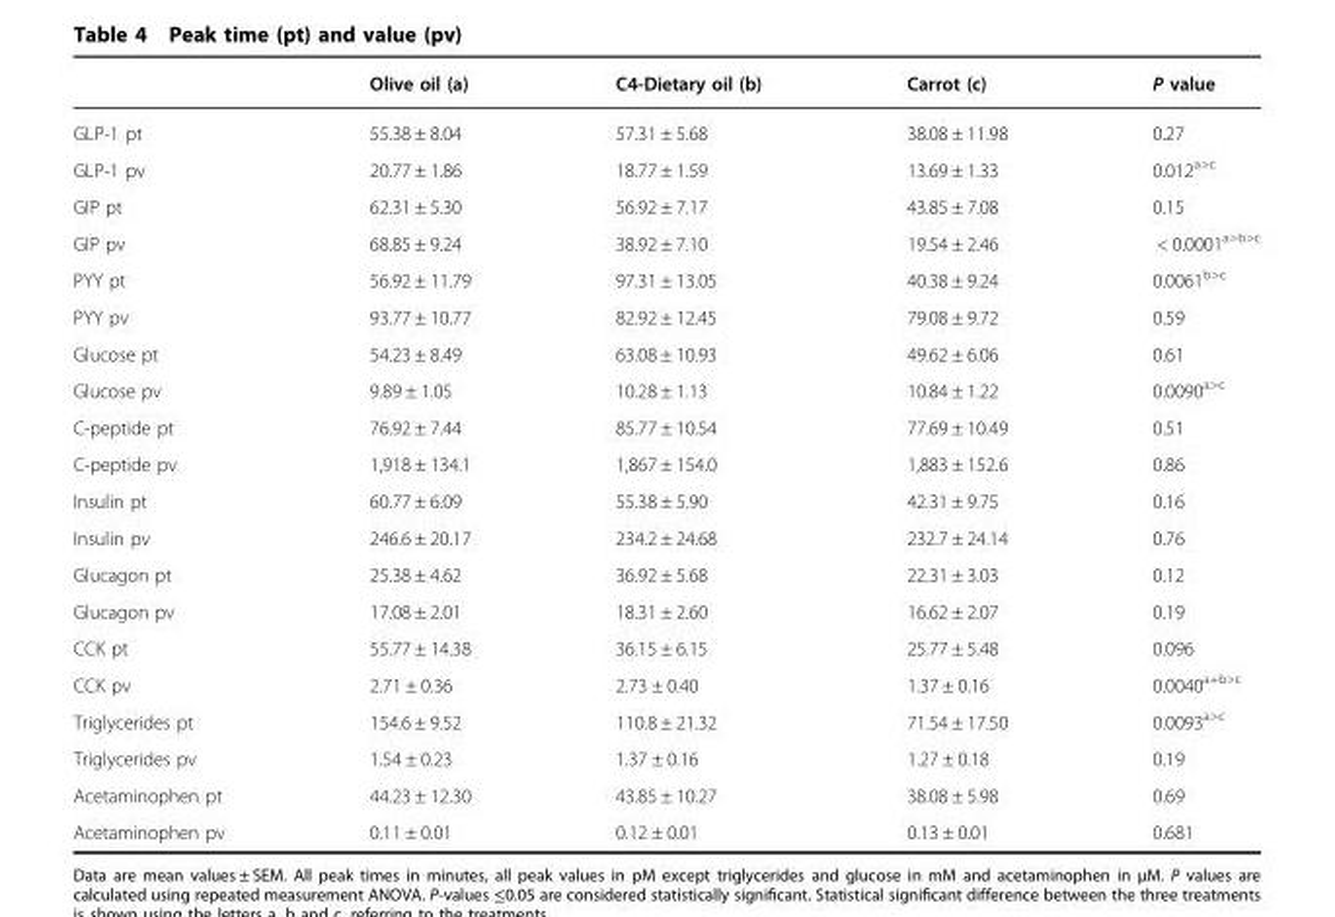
<table><thead><tr><td></td><td>Olive oil (a)</td><td>C4-Dietary oil (b)</td><td>Carrot (c)</td><td>P value</td></tr></thead><tbody><tr><td>GLP-1 pt</td><td>55.38 ± 8.04</td><td>57.31 ± 5.68</td><td>38.08 ± 11.98</td><td>0.27</td></tr><tr><td>GLP-1 pv</td><td>20.77 ± 1.86</td><td>18.77 ± 1.59</td><td>13.69 ± 1.33</td><td>0.012<sup>a&gt;c</sup></td></tr><tr><td>GIP pt</td><td>62.31 ± 5.30</td><td>56.92 ± 7.17</td><td>43.85 ± 7.08</td><td>0.15</td></tr><tr><td>GIP pv</td><td>68.85 ± 9.24</td><td>38.92 ± 7.10</td><td>19.54 ± 2.46</td><td>&lt; 0.0001<sup>a&gt;b&gt;c</sup></td></tr><tr><td>PYY pt</td><td>56.92 ± 11.79</td><td>97.31 ± 13.05</td><td>40.38 ± 9.24</td><td>0.0061<sup>b&gt;c</sup></td></tr><tr><td>PYY pv</td><td>93.77 ± 10.77</td><td>82.92 ± 12.45</td><td>79.08 ± 9.72</td><td>0.59</td></tr><tr><td>Glucose pt</td><td>54.23 ± 8.49</td><td>63.08 ± 10.93</td><td>49.62 ± 6.06</td><td>0.61</td></tr><tr><td>Glucose pv</td><td>9.89 ± 1.05</td><td>10.28 ± 1.13</td><td>10.84 ± 1.22</td><td>0.0090<sup>a&gt;c</sup></td></tr><tr><td>C-peptide pt</td><td>76.92 ± 7.44</td><td>85.77 ± 10.54</td><td>77.69 ± 10.49</td><td>0.51</td></tr><tr><td>C-peptide pv</td><td>1,918 ± 134.1</td><td>1,867 ± 154.0</td><td>1,883 ± 152.6</td><td>0.86</td></tr><tr><td>Insulin pt</td><td>60.77 ± 6.09</td><td>55.38 ± 5.90</td><td>42.31 ± 9.75</td><td>0.16</td></tr><tr><td>Insulin pv</td><td>246.6 ± 20.17</td><td>234.2 ± 24.68</td><td>232.7 ± 24.14</td><td>0.76</td></tr><tr><td>Glucagon pt</td><td>25.38 ± 4.62</td><td>36.92 ± 5.68</td><td>22.31 ± 3.03</td><td>0.12</td></tr><tr><td>Glucagon pv</td><td>17.08 ± 2.01</td><td>18.31 ± 2.60</td><td>16.62 ± 2.07</td><td>0.19</td></tr><tr><td>CCK pt</td><td>55.77 ± 14.38</td><td>36.15 ± 6.15</td><td>25.77 ± 5.48</td><td>0.096</td></tr><tr><td>CCK pv</td><td>2.71 ± 0.36</td><td>2.73 ± 0.40</td><td>1.37 ± 0.16</td><td>0.0040<sup>a+b&gt;c</sup></td></tr><tr><td>Triglycerides pt</td><td>154.6 ± 9.52</td><td>110.8 ± 21.32</td><td>71.54 ± 17.50</td><td>0.0093<sup>a&gt;c</sup></td></tr><tr><td>Triglycerides pv</td><td>1.54 ± 0.23</td><td>1.37 ± 0.16</td><td>1.27 ± 0.18</td><td>0.19</td></tr><tr><td>Acetaminophen pt</td><td>44.23 ± 12.30</td><td>43.85 ± 10.27</td><td>38.08 ± 5.98</td><td>0.69</td></tr><tr><td>Acetaminophen pv</td><td>0.11 ± 0.01</td><td>0.12 ± 0.01</td><td>0.13 ± 0.01</td><td>0.681</td></tr></tbody></table>